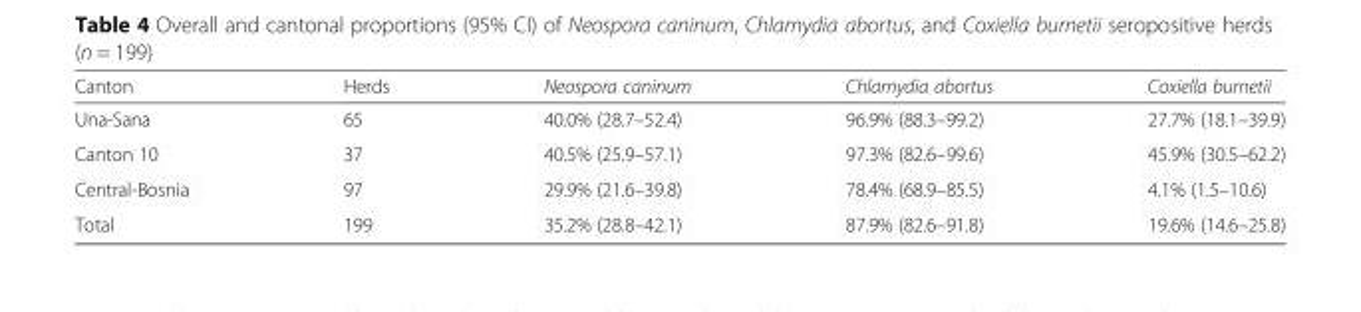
<table><thead><tr><td>Canton</td><td>Herds</td><td>Neospora caninum</td><td>Chlamydia abortus</td><td>Coxiella burnetii</td></tr></thead><tbody><tr><td>Una-Sana</td><td>65</td><td>40.0% (28.7–52.4)</td><td>96.9% (88.3–99.2)</td><td>27.7% (18.1–39.9)</td></tr><tr><td>Canton 10</td><td>37</td><td>40.5% (25.9–57.1)</td><td>97.3% (82.6–99.6)</td><td>45.9% (30.5–62.2)</td></tr><tr><td>Central-Bosnia</td><td>97</td><td>29.9% (21.6–39.8)</td><td>78.4% (68.9–85.5)</td><td>4.1% (1.5–10.6)</td></tr><tr><td>Total</td><td>199</td><td>35.2% (28.8–42.1)</td><td>87.9% (82.6–91.8)</td><td>19.6% (14.6–25.8)</td></tr></tbody></table>